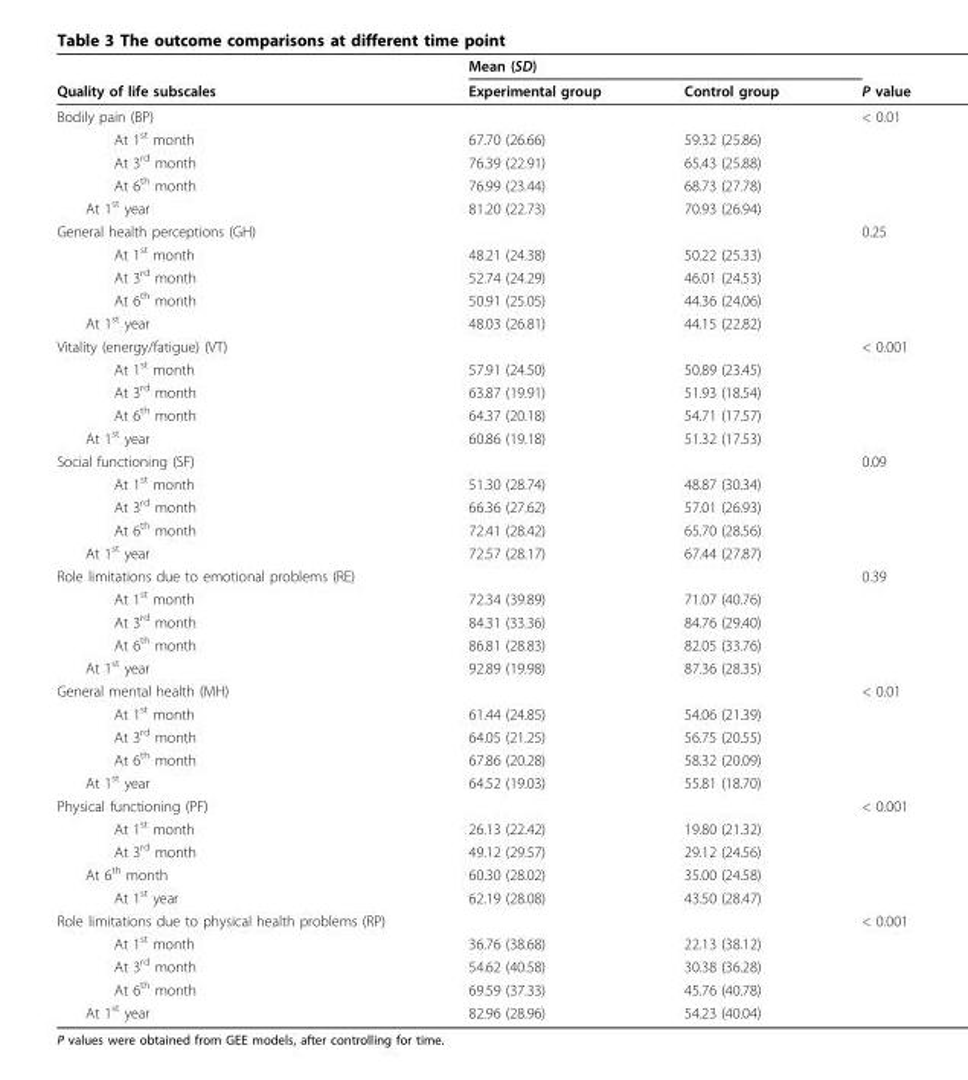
<table><thead><tr><td rowspan="2">Quality of life subscales</td><td colspan="2">Mean (SD)</td><td rowspan="2">P value</td></tr><tr><td>Experimental group</td><td>Control group</td></tr></thead><tbody><tr><td>Bodily pain (BP)</td><td></td><td></td><td>&lt; 0.01</td></tr><tr><td>At 1<sup>st</sup> month</td><td>67.70 (26.66)</td><td>59.32 (25.86)</td><td></td></tr><tr><td>At 3<sup>rd</sup> month</td><td>76.39 (22.91)</td><td>65.43 (25.88)</td><td></td></tr><tr><td>At 6<sup>th</sup> month</td><td>76.99 (23.44)</td><td>68.73 (27.78)</td><td></td></tr><tr><td>At 1<sup>st</sup> year</td><td>81.20 (22.73)</td><td>70.93 (26.94)</td><td></td></tr><tr><td>General health perceptions (GH)</td><td></td><td></td><td>0.25</td></tr><tr><td>At 1<sup>st</sup> month</td><td>48.21 (24.38)</td><td>50.22 (25.33)</td><td></td></tr><tr><td>At 3<sup>rd</sup> month</td><td>52.74 (24.29)</td><td>46.01 (24.53)</td><td></td></tr><tr><td>At 6<sup>th</sup> month</td><td>50.91 (25.05)</td><td>44.36 (24.06)</td><td></td></tr><tr><td>At 1<sup>st</sup> year</td><td>48.03 (26.81)</td><td>44.15 (22.82)</td><td></td></tr><tr><td>Vitality (energy/fatigue) (VT)</td><td></td><td></td><td>&lt; 0.001</td></tr><tr><td>At 1<sup>st</sup> month</td><td>57.91 (24.50)</td><td>50.89 (23.45)</td><td></td></tr><tr><td>At 3<sup>rd</sup> month</td><td>63.87 (19.91)</td><td>51.93 (18.54)</td><td></td></tr><tr><td>At 6<sup>th</sup> month</td><td>64.37 (20.18)</td><td>54.71 (17.57)</td><td></td></tr><tr><td>At 1<sup>st</sup> year</td><td>60.86 (19.18)</td><td>51.32 (17.53)</td><td></td></tr><tr><td>Social functioning (SF)</td><td></td><td></td><td>0.09</td></tr><tr><td>At 1<sup>st</sup> month</td><td>51.30 (28.74)</td><td>48.87 (30.34)</td><td></td></tr><tr><td>At 3<sup>rd</sup> month</td><td>66.36 (27.62)</td><td>57.01 (26.93)</td><td></td></tr><tr><td>At 6<sup>th</sup> month</td><td>72.41 (28.42)</td><td>65.70 (28.56)</td><td></td></tr><tr><td>At 1<sup>st</sup> year</td><td>72.57 (28.17)</td><td>67.44 (27.87)</td><td></td></tr><tr><td>Role limitations due to emotional problems (RE)</td><td></td><td></td><td>0.39</td></tr><tr><td>At 1<sup>st</sup> month</td><td>72.34 (39.89)</td><td>71.07 (40.76)</td><td></td></tr><tr><td>At 3<sup>rd</sup> month</td><td>84.31 (33.36)</td><td>84.76 (29.40)</td><td></td></tr><tr><td>At 6<sup>th</sup> month</td><td>86.81 (28.83)</td><td>82.05 (33.76)</td><td></td></tr><tr><td>At 1<sup>st</sup> year</td><td>92.89 (19.98)</td><td>87.36 (28.35)</td><td></td></tr><tr><td>General mental health (MH)</td><td></td><td></td><td>&lt; 0.01</td></tr><tr><td>At 1<sup>st</sup> month</td><td>61.44 (24.85)</td><td>54.06 (21.39)</td><td></td></tr><tr><td>At 3<sup>rd</sup> month</td><td>64.05 (21.25)</td><td>56.75 (20.55)</td><td></td></tr><tr><td>At 6<sup>th</sup> month</td><td>67.86 (20.28)</td><td>58.32 (20.09)</td><td></td></tr><tr><td>At 1<sup>st</sup> year</td><td>64.52 (19.03)</td><td>55.81 (18.70)</td><td></td></tr><tr><td>Physical functioning (PF)</td><td></td><td></td><td>&lt; 0.001</td></tr><tr><td>At 1<sup>st</sup> month</td><td>26.13 (22.42)</td><td>19.80 (21.32)</td><td></td></tr><tr><td>At 3<sup>rd</sup> month</td><td>49.12 (29.57)</td><td>29.12 (24.56)</td><td></td></tr><tr><td>At 6<sup>th</sup> month</td><td>60.30 (28.02)</td><td>35.00 (24.58)</td><td></td></tr><tr><td>At 1<sup>st</sup> year</td><td>62.19 (28.08)</td><td>43.50 (28.47)</td><td></td></tr><tr><td>Role limitations due to physical health problems (RP)</td><td></td><td></td><td>&lt; 0.001</td></tr><tr><td>At 1<sup>st</sup> month</td><td>36.76 (38.68)</td><td>22.13 (38.12)</td><td></td></tr><tr><td>At 3<sup>rd</sup> month</td><td>54.62 (40.58)</td><td>30.38 (36.28)</td><td></td></tr><tr><td>At 6<sup>th</sup> month</td><td>69.59 (37.33)</td><td>45.76 (40.78)</td><td></td></tr><tr><td>At 1<sup>st</sup> year</td><td>82.96 (28.96)</td><td>54.23 (40.04)</td><td></td></tr></tbody></table>